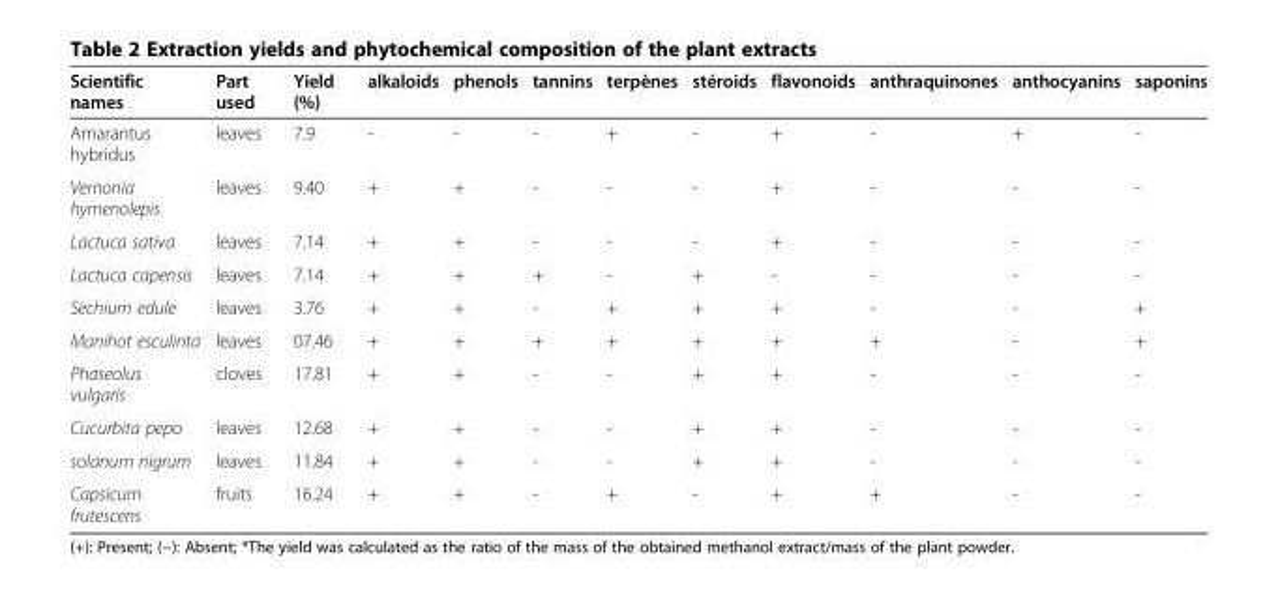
<table><thead><tr><td>Scientific names</td><td>Part used</td><td>Yield (%)</td><td>alkaloids</td><td>phenols</td><td>tannins</td><td>terpènes</td><td>stéroids</td><td>flavonoids</td><td>anthraquinones</td><td>anthocyanins</td><td>saponins</td></tr></thead><tbody><tr><td>Amarantus hybridus</td><td>leaves</td><td>7.9</td><td>-</td><td>-</td><td>-</td><td>+</td><td>-</td><td>+</td><td>-</td><td>+</td><td>-</td></tr><tr><td>Vernonia hymenolepis</td><td>leaves</td><td>9.40</td><td>+</td><td>+</td><td>-</td><td>-</td><td>-</td><td>+</td><td>-</td><td>-</td><td>-</td></tr><tr><td>Lactuca sativa</td><td>leaves</td><td>7.14</td><td>+</td><td>+</td><td>-</td><td>-</td><td>-</td><td>+</td><td>-</td><td>-</td><td>-</td></tr><tr><td>Lactuca capensis</td><td>leaves</td><td>7.14</td><td>+</td><td>+</td><td>+</td><td>-</td><td>+</td><td>-</td><td>-</td><td>-</td><td>-</td></tr><tr><td>Sechium edule</td><td>leaves</td><td>3.76</td><td>+</td><td>+</td><td>-</td><td>+</td><td>+</td><td>+</td><td>-</td><td>-</td><td>+</td></tr><tr><td>Manihot esculinta</td><td>leaves</td><td>07.46</td><td>+</td><td>+</td><td>+</td><td>+</td><td>+</td><td>+</td><td>+</td><td>-</td><td>+</td></tr><tr><td>Phaseolus vulgaris</td><td>cloves</td><td>17.81</td><td>+</td><td>+</td><td>-</td><td>-</td><td>+</td><td>+</td><td>-</td><td>-</td><td>-</td></tr><tr><td>Cucurbita pepo</td><td>leaves</td><td>12.68</td><td>+</td><td>+</td><td>-</td><td>-</td><td>+</td><td>+</td><td>-</td><td>-</td><td>-</td></tr><tr><td>solanum nigrum</td><td>leaves</td><td>11.84</td><td>+</td><td>+</td><td>-</td><td>-</td><td>+</td><td>+</td><td>-</td><td>-</td><td>-</td></tr><tr><td>Capsicum frutescens</td><td>fruits</td><td>16.24</td><td>+</td><td>+</td><td>-</td><td>+</td><td>-</td><td>+</td><td>+</td><td>-</td><td>-</td></tr></tbody></table>